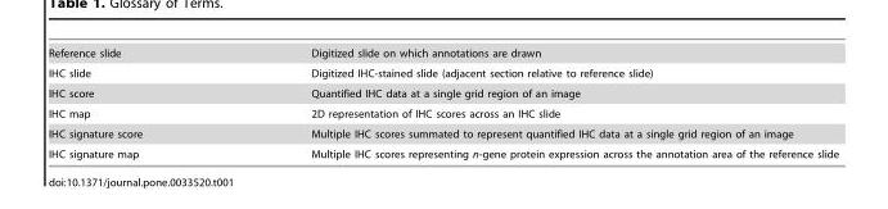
<table><tbody><tr><td>Reference slide</td><td>Digitized slide on which annotations are drawn</td></tr><tr><td>IHC slide</td><td>Digitized IHC-stained slide (adjacent section relative to reference slide)</td></tr><tr><td>IHC score</td><td>Quantified IHC data at a single grid region of an image</td></tr><tr><td>IHC map</td><td>2D representation of IHC scores across an IHC slide</td></tr><tr><td>IHC signature score</td><td>Multiple IHC scores summated to represent quantified IHC data at a single grid region of an image</td></tr><tr><td>IHC signature map</td><td>Multiple IHC scores representing n-gene protein expression across the annotation area of the reference slide</td></tr></tbody></table>